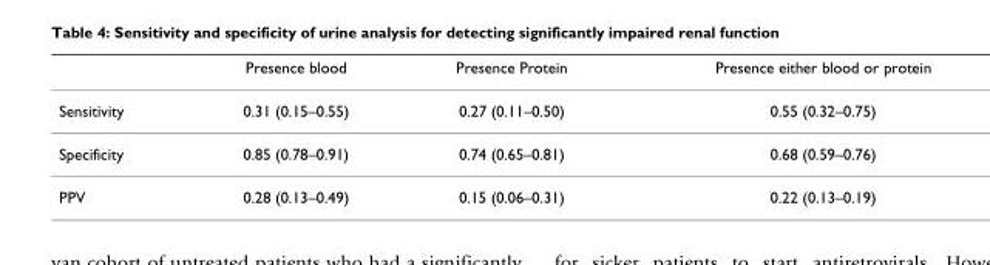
<table><thead><tr><td></td><td>Presence blood</td><td>Presence Protein</td><td>Presence either blood or protein</td></tr></thead><tbody><tr><td>Sensitivity</td><td>0.31 (0.15–0.55)</td><td>0.27 (0.11–0.50)</td><td>0.55 (0.32–0.75)</td></tr><tr><td>Specificity</td><td>0.85 (0.78–0.91)</td><td>0.74 (0.65–0.81)</td><td>0.68 (0.59–0.76)</td></tr><tr><td>PPV</td><td>0.28 (0.13–0.49)</td><td>0.15 (0.06–0.31)</td><td>0.22 (0.13–0.19)</td></tr></tbody></table>